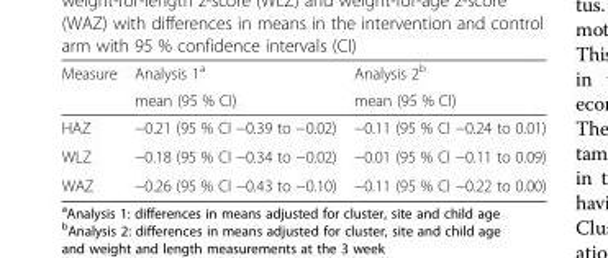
<table><thead><tr><td rowspan="2">Measure</td><td rowspan="2">Analysis 1<sup>a</sup> mean (95 % CI)</td><td rowspan="2">Analysis 2<sup>b</sup> mean (95 % CI)</td></tr><tr></tr></thead><tbody><tr><td>HAZ</td><td>−0.21 (95 % CI −0.39 to −0.02)</td><td>−0.11 (95 % CI −0.24 to 0.01)</td></tr><tr><td>WLZ</td><td>−0.18 (95 % CI −0.34 to −0.02)</td><td>−0.01 (95 % CI −0.11 to 0.09)</td></tr><tr><td>WAZ</td><td>−0.26 (95 % CI −0.43 to −0.10)</td><td>−0.11 (95 % CI −0.22 to 0.00)</td></tr></tbody></table>